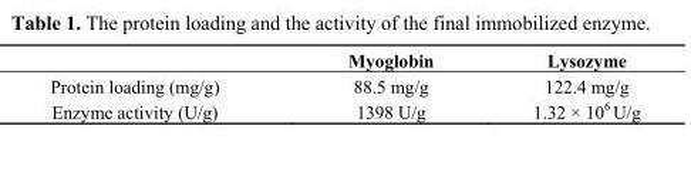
<table><thead><tr><td></td><td>Myoglobin</td><td>Lysozyme</td></tr></thead><tbody><tr><td>Protein loading (mg/g)</td><td>88.5 mg/g</td><td>122.4 mg/g</td></tr><tr><td>Enzyme activity (U/g)</td><td>1398 U/g</td><td>1.32 × 10<sup>6</sup> U/g</td></tr></tbody></table>